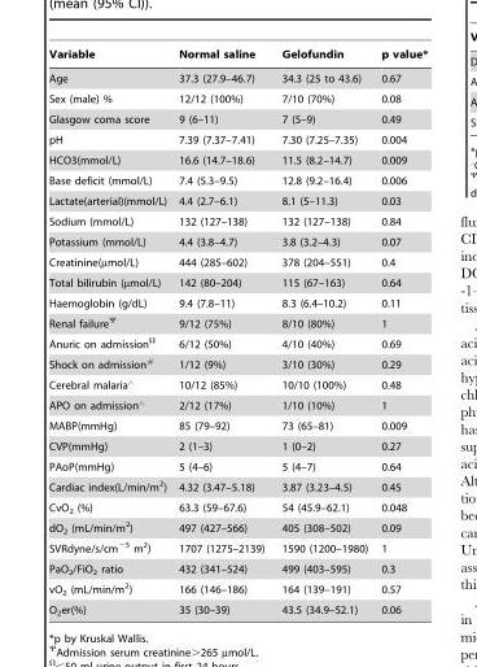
<table><thead><tr><td>Variable</td><td>Normal saline</td><td>Gelofundin</td><td>p value*</td></tr></thead><tbody><tr><td>Age</td><td>37.3 (27.9–46.7)</td><td>34.3 (25 to 43.6)</td><td>0.67</td></tr><tr><td>Sex (male) %</td><td>12/12 (100%)</td><td>7/10 (70%)</td><td>0.08</td></tr><tr><td>Glasgow coma score</td><td>9 (6–11)</td><td>7 (5–9)</td><td>0.49</td></tr><tr><td>pH</td><td>7.39 (7.37–7.41)</td><td>7.30 (7.25–7.35)</td><td>0.004</td></tr><tr><td>HCO3(mmol/L)</td><td>16.6 (14.7–18.6)</td><td>11.5 (8.2–14.7)</td><td>0.009</td></tr><tr><td>Base deficit (mmol/L)</td><td>7.4 (5.3–9.5)</td><td>12.8 (9.2–16.4)</td><td>0.006</td></tr><tr><td>Lactate(arterial)(mmol/L)</td><td>4.4 (2.7–6.1)</td><td>8.1 (5–11.3)</td><td>0.03</td></tr><tr><td>Sodium (mmol/L)</td><td>132 (127–138)</td><td>132 (127–138)</td><td>0.84</td></tr><tr><td>Potassium (mmol/L)</td><td>4.4 (3.8–4.7)</td><td>3.8 (3.2–4.3)</td><td>0.07</td></tr><tr><td>Creatinine(µmol/L)</td><td>444 (285–602)</td><td>378 (204–551)</td><td>0.4</td></tr><tr><td>Total bilirubin (µmol/L)</td><td>142 (80–204)</td><td>115 (67–163)</td><td>0.64</td></tr><tr><td>Haemoglobin (g/dL)</td><td>9.4 (7.8–11)</td><td>8.3 (6.4–10.2)</td><td>0.11</td></tr><tr><td>Renal failureΨ</td><td>9/12 (75%)</td><td>8/10 (80%)</td><td>1</td></tr><tr><td>Anuric on admissionΩ</td><td>6/12 (50%)</td><td>4/10 (40%)</td><td>0.69</td></tr><tr><td>Shock on admission#</td><td>1/12 (9%)</td><td>3/10 (30%)</td><td>0.29</td></tr><tr><td>Cerebral malaria‘</td><td>10/12 (85%)</td><td>10/10 (100%)</td><td>0.48</td></tr><tr><td>APO on admission‘</td><td>2/12 (17%)</td><td>1/10 (10%)</td><td>1</td></tr><tr><td>MABP(mmHg)</td><td>85 (79–92)</td><td>73 (65–81)</td><td>0.009</td></tr><tr><td>CVP(mmHg)</td><td>2 (1–3)</td><td>1 (0–2)</td><td>0.27</td></tr><tr><td>PAoP(mmHg)</td><td>5 (4–6)</td><td>5 (4–7)</td><td>0.64</td></tr><tr><td>Cardiac index(L/min/m<sup>2</sup>)</td><td>4.32 (3.47–5.18)</td><td>3.87 (3.23–4.5)</td><td>0.45</td></tr><tr><td>CvO<sub>2</sub> (%)</td><td>63.3 (59–67.6)</td><td>54 (45.9–62.1)</td><td>0.048</td></tr><tr><td>dO<sub>2</sub> (mL/min/m<sup>2</sup>)</td><td>497 (427–566)</td><td>405 (308–502)</td><td>0.09</td></tr><tr><td>SVRdyne/s/cm<sup>−5</sup> m<sup>2</sup>)</td><td>1707 (1275–2139)</td><td>1590 (1200–1980)</td><td>1</td></tr><tr><td>PaO<sub>2</sub>/FiO<sub>2</sub> ratio</td><td>432 (341–524)</td><td>499 (403–595)</td><td>0.3</td></tr><tr><td>vO<sub>2</sub> (mL/min/m<sup>2</sup>)</td><td>166 (146–186)</td><td>164 (139–191)</td><td>0.57</td></tr><tr><td>O<sub>2</sub>er(%)</td><td>35 (30–39)</td><td>43.5 (34.9–52.1)</td><td>0.06</td></tr></tbody></table>